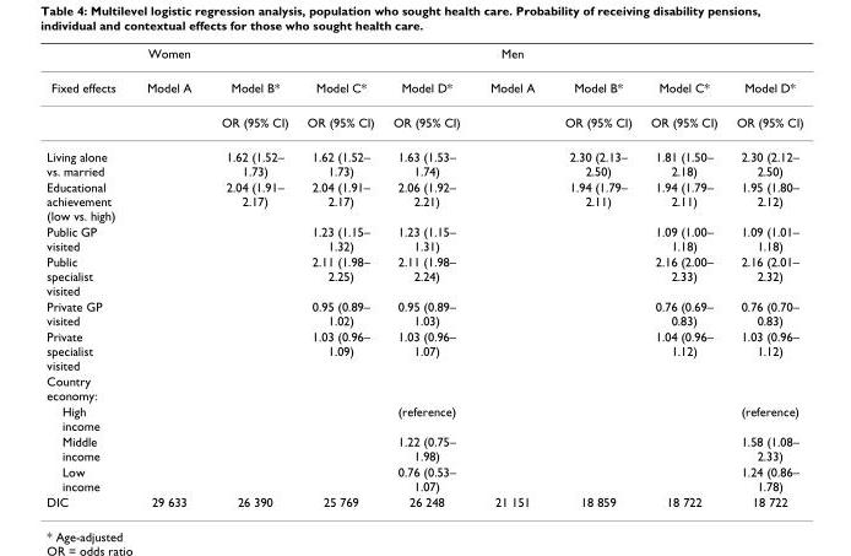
<table><thead><tr><td></td><td>Women</td><td></td><td></td><td></td><td>Men</td><td></td><td></td><td></td></tr></thead><tbody><tr><td rowspan="2">Fixed effects</td><td>Model A</td><td>Model B*</td><td>Model C*</td><td>Model D*</td><td>Model A</td><td>Model B*</td><td>Model C*</td><td>Model D*</td></tr><tr><td></td><td>OR (95% CI)</td><td>OR (95% CI)</td><td>OR (95% CI)</td><td></td><td>OR (95% CI)</td><td>OR (95% CI)</td><td>OR (95% CI)</td></tr><tr><td>Living alone vs. married</td><td></td><td>1.62 (1.52– 1.73)</td><td>1.62 (1.52– 1.73)</td><td>1.63 (1.53– 1.74)</td><td></td><td>2.30 (2.13– 2.50)</td><td>1.81 (1.50– 2.18)</td><td>2.30 (2.12– 2.50)</td></tr><tr><td>Educational achievement (low vs. high)</td><td></td><td>2.04 (1.91– 2.17)</td><td>2.04 (1.91– 2.17)</td><td>2.06 (1.92– 2.21)</td><td></td><td>1.94 (1.79– 2.11)</td><td>1.94 (1.79– 2.11)</td><td>1.95 (1.80– 2.12)</td></tr><tr><td>Public GP visited</td><td></td><td></td><td>1.23 (1.15– 1.32)</td><td>1.23 (1.15– 1.31)</td><td></td><td></td><td>1.09 (1.00– 1.18)</td><td>1.09 (1.01– 1.18)</td></tr><tr><td>Public specialist visited</td><td></td><td></td><td>2.11 (1.98– 2.25)</td><td>2.11 (1.98– 2.24)</td><td></td><td></td><td>2.16 (2.00– 2.33)</td><td>2.16 (2.01– 2.32)</td></tr><tr><td>Private GP visited</td><td></td><td></td><td>0.95 (0.89– 1.02)</td><td>0.95 (0.89– 1.03)</td><td></td><td></td><td>0.76 (0.69– 0.83)</td><td>0.76 (0.70– 0.83)</td></tr><tr><td>Private specialist visited</td><td></td><td></td><td>1.03 (0.96– 1.09)</td><td>1.03 (0.96– 1.07)</td><td></td><td></td><td>1.04 (0.96– 1.12)</td><td>1.03 (0.96– 1.12)</td></tr><tr><td colspan="9">Country economy:</td></tr><tr><td>High income</td><td></td><td></td><td></td><td>(reference)</td><td></td><td></td><td></td><td>(reference)</td></tr><tr><td>Middle income</td><td></td><td></td><td></td><td>1.22 (0.75– 1.98)</td><td></td><td></td><td></td><td>1.58 (1.08– 2.33)</td></tr><tr><td>Low income</td><td></td><td></td><td></td><td>0.76 (0.53– 1.07)</td><td></td><td></td><td></td><td>1.24 (0.86– 1.78)</td></tr><tr><td>DIC</td><td>29 633</td><td>26 390</td><td>25 769</td><td>26 248</td><td>21 151</td><td>18 859</td><td>18 722</td><td>18 722</td></tr></tbody></table>